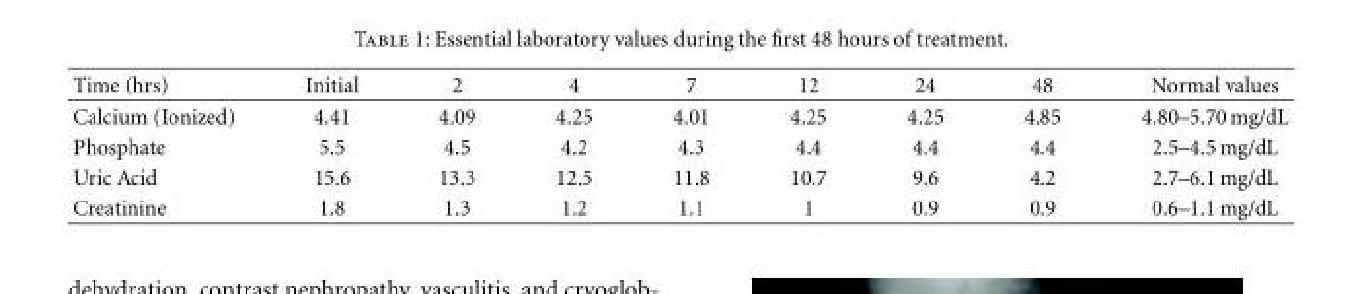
<table><thead><tr><td>Time (hrs)</td><td>Initial</td><td>2</td><td>4</td><td>7</td><td>12</td><td>24</td><td>48</td><td>Normal values</td></tr></thead><tbody><tr><td>Calcium (Ionized)</td><td>4.41</td><td>4.09</td><td>4.25</td><td>4.01</td><td>4.25</td><td>4.25</td><td>4.85</td><td>4.80–5.70 mg/dL</td></tr><tr><td>Phosphate</td><td>5.5</td><td>4.5</td><td>4.2</td><td>4.3</td><td>4.4</td><td>4.4</td><td>4.4</td><td>2.5–4.5 mg/dL</td></tr><tr><td>Uric Acid</td><td>15.6</td><td>13.3</td><td>12.5</td><td>11.8</td><td>10.7</td><td>9.6</td><td>4.2</td><td>2.7–6.1 mg/dL</td></tr><tr><td>Creatinine</td><td>1.8</td><td>1.3</td><td>1.2</td><td>1.1</td><td>1</td><td>0.9</td><td>0.9</td><td>0.6–1.1 mg/dL</td></tr></tbody></table>